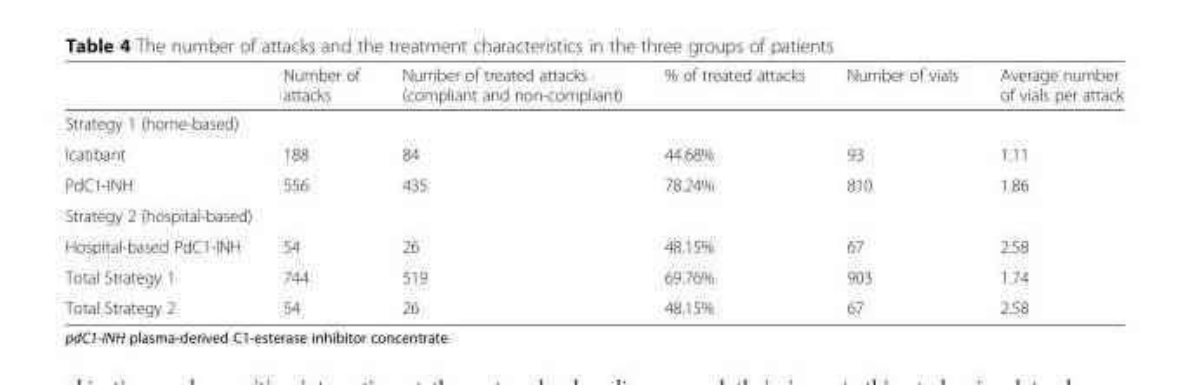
<table><thead><tr><td></td><td>Number of attacks</td><td>Number of treated attacks (compliant and non-compliant)</td><td>% of treated attacks</td><td>Number of vials</td><td>Average number of vials per attack</td></tr></thead><tbody><tr><td colspan="6">Strategy 1 (home-based)</td></tr><tr><td>Icatibant</td><td>188</td><td>84</td><td>44.68%</td><td>93</td><td>1.11</td></tr><tr><td>PdC1-INH</td><td>556</td><td>435</td><td>78.24%</td><td>810</td><td>1.86</td></tr><tr><td colspan="6">Strategy 2 (hospital-based)</td></tr><tr><td>Hospital-based PdC1-INH</td><td>54</td><td>26</td><td>48.15%</td><td>67</td><td>2.58</td></tr><tr><td>Total Strategy 1</td><td>744</td><td>519</td><td>69.76%</td><td>903</td><td>1.74</td></tr><tr><td>Total Strategy 2</td><td>54</td><td>26</td><td>48.15%</td><td>67</td><td>2.58</td></tr></tbody></table>